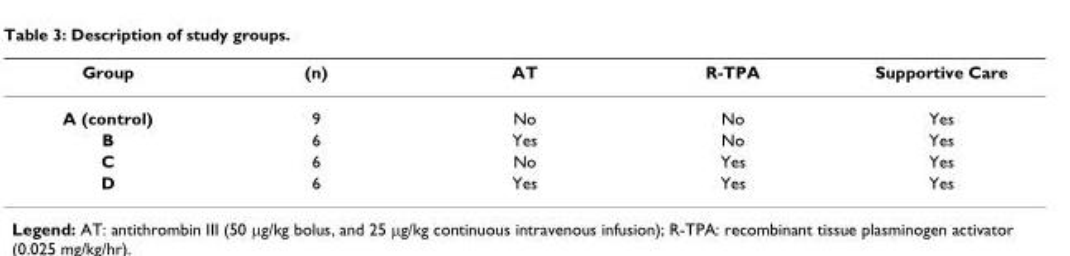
<table><thead><tr><td>Group</td><td>(n)</td><td>AT</td><td>R-TPA</td><td>Supportive Care</td></tr></thead><tbody><tr><td>A (control)</td><td>9</td><td>No</td><td>No</td><td>Yes</td></tr><tr><td>B</td><td>6</td><td>Yes</td><td>No</td><td>Yes</td></tr><tr><td>C</td><td>6</td><td>No</td><td>Yes</td><td>Yes</td></tr><tr><td>D</td><td>6</td><td>Yes</td><td>Yes</td><td>Yes</td></tr></tbody></table>